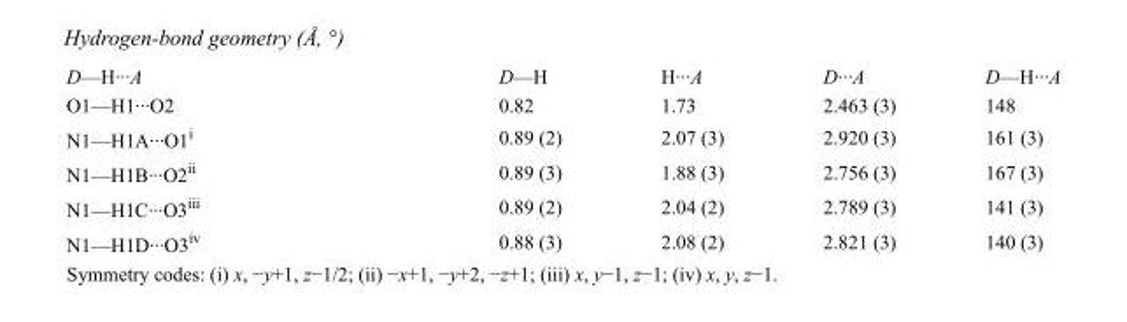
<table><tbody><tr><td>D—H···A</td><td>D—H</td><td>H···A</td><td>D···A</td><td>D—H···A</td></tr><tr><td>O1—H1···O2</td><td>0.82</td><td>1.73</td><td>2.463 (3)</td><td>148</td></tr><tr><td>N1—H1A···O1<sup>i</sup></td><td>0.89 (2)</td><td>2.07 (3)</td><td>2.920 (3)</td><td>161 (3)</td></tr><tr><td>N1—H1B···O2<sup>ii</sup></td><td>0.89 (3)</td><td>1.88 (3)</td><td>2.756 (3)</td><td>167 (3)</td></tr><tr><td>N1—H1C···O3<sup>iii</sup></td><td>0.89 (2)</td><td>2.04 (2)</td><td>2.789 (3)</td><td>141 (3)</td></tr><tr><td>N1—H1D···O3<sup>iv</sup></td><td>0.88 (3)</td><td>2.08 (2)</td><td>2.821 (3)</td><td>140 (3)</td></tr></tbody></table>